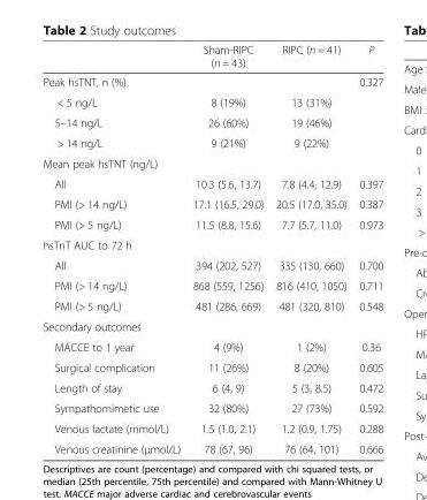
<table><thead><tr><td></td><td>Sham-RIPC (n = 43)</td><td>RIPC (n = 41)</td><td>P</td></tr></thead><tbody><tr><td colspan="3">Peak hsTNT, n (%)</td><td>0.327</td></tr><tr><td>&lt; 5 ng/L</td><td>8 (19%)</td><td>13 (31%)</td><td></td></tr><tr><td>5–14 ng/L</td><td>26 (60%)</td><td>19 (46%)</td><td></td></tr><tr><td>&gt; 14 ng/L</td><td>9 (21%)</td><td>9 (22%)</td><td></td></tr><tr><td colspan="4">Mean peak hsTNT (ng/L)</td></tr><tr><td>All</td><td>10.3 (5.6, 13.7)</td><td>7.8 (4.4, 12.9)</td><td>0.397</td></tr><tr><td>PMI (&gt; 14 ng/L)</td><td>17.1 (16.5, 29.0)</td><td>20.5 (17.0, 35.0)</td><td>0.387</td></tr><tr><td>PMI (&gt; 5 ng/L)</td><td>11.5 (8.8, 15.6)</td><td>7.7 (5.7, 11.0)</td><td>0.973</td></tr><tr><td colspan="4">hsTnT AUC to 72 h</td></tr><tr><td>All</td><td>394 (202, 527)</td><td>335 (130, 660)</td><td>0.700</td></tr><tr><td>PMI (&gt; 14 ng/L)</td><td>868 (559, 1256)</td><td>816 (410, 1050)</td><td>0.711</td></tr><tr><td>PMI (&gt; 5 ng/L)</td><td>481 (286, 669)</td><td>481 (320, 810)</td><td>0.548</td></tr><tr><td colspan="4">Secondary outcomes</td></tr><tr><td>MACCE to 1 year</td><td>4 (9%)</td><td>1 (2%)</td><td>0.36</td></tr><tr><td>Surgical complication</td><td>11 (26%)</td><td>8 (20%)</td><td>0.605</td></tr><tr><td>Length of stay</td><td>6 (4, 9)</td><td>5 (3, 8.5)</td><td>0.472</td></tr><tr><td>Sympathomimetic use</td><td>32 (80%)</td><td>27 (73%)</td><td>0.592</td></tr><tr><td>Venous lactate (mmol/L)</td><td>1.5 (1.0, 2.1)</td><td>1.2 (0.9, 1.75)</td><td>0.288</td></tr><tr><td>Venous creatinine (μmol/L)</td><td>78 (67, 96)</td><td>76 (64, 101)</td><td>0.666</td></tr></tbody></table>